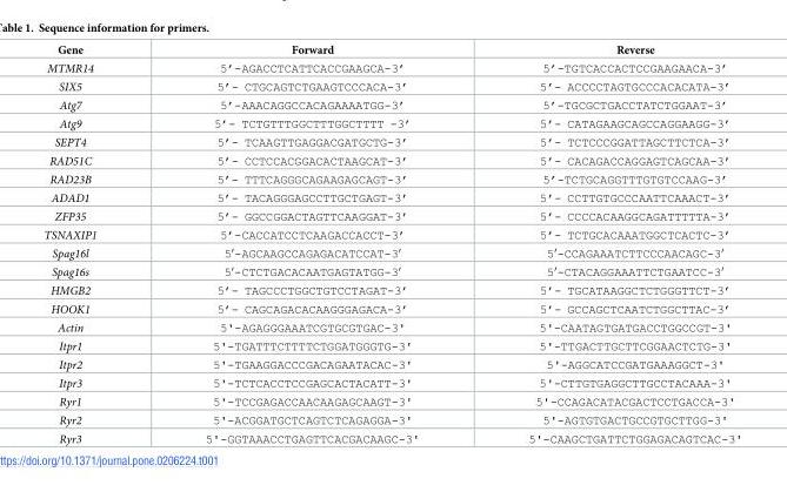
<table><thead><tr><td>Gene</td><td>Forward</td><td>Reverse</td></tr></thead><tbody><tr><td>MTMR14</td><td>5’-AGACCTCATTCACCGAAGCA-3’</td><td>5’-TGTCACCACTCCGAAGAACA-3’</td></tr><tr><td>SIX5</td><td>5’- CTGCAGTCTGAAGTCCCACA-3’</td><td>5’- ACCCCTAGTGCCCACACATA-3’</td></tr><tr><td>Atg7</td><td>5’-AAACAGGCCACAGAAAATGG-3’</td><td>5’-TGCGCTGACCTATCTGGAAT-3’</td></tr><tr><td>Atg9</td><td>5’- TCTGTTTGGCTTTGGCTTTT -3’</td><td>5’- CATAGAAGCAGCCAGGAAGG-3’</td></tr><tr><td>SEPT4</td><td>5’- TCAAGTTGAGGACGATGCTG-3’</td><td>5’- TCTCCCGGATTAGCTTCTCA-3’</td></tr><tr><td>RAD51C</td><td>5’- CCTCCACGGACACTAAGCAT-3’</td><td>5’- CACAGACCAGGAGTCAGCAA-3’</td></tr><tr><td>RAD23B</td><td>5’- TTTCAGGGCAGAAGAGCAGT-3’</td><td>5’-TCTGCAGGTTTGTGTCCAAG-3’</td></tr><tr><td>ADAD1</td><td>5’- TACAGGGAGCCTTGCTGAGT-3’</td><td>5’- CCTTGTGCCCAATTCAAACT-3’</td></tr><tr><td>ZFP35</td><td>5’- GGCCGGACTAGTTCAAGGAT-3’</td><td>5’- CCCCACAAGGCAGATTTTTA-3’</td></tr><tr><td>TSNAXIP1</td><td>5’-CACCATCCTCAAGACCACCT-3’</td><td>5’- TCTGCACAAATGGCTCACTC-3’</td></tr><tr><td>Spag16l</td><td>5′-AGCAAGCCAGAGACATCCAT-3′</td><td>5′-CCAGAAATCTTCCCAACAGC-3′</td></tr><tr><td>Spag16s</td><td>5′-CTCTGACACAATGAGTATGG-3′</td><td>5′-CTACAGGAAATTCTGAATCC-3′</td></tr><tr><td>HMGB2</td><td>5’- TAGCCCTGGCTGTCCTAGAT-3’</td><td>5’- TGCATAAGGCTCTGGGTTCT-3’</td></tr><tr><td>HOOK1</td><td>5’- CAGCAGACACAAGGGAGACA-3’</td><td>5’- GCCAGCTCAATCTGGCTTAC-3’</td></tr><tr><td>Actin</td><td>5&#x27;-AGAGGGAAATCGTGCGTGAC-3&#x27;</td><td>5&#x27;-CAATAGTGATGACCTGGCCGT-3&#x27;</td></tr><tr><td>Itpr1</td><td>5&#x27;-TGATTTCTTTTCTGGATGGGTG-3&#x27;</td><td>5&#x27;-TTGACTTGCTTCGGAACTCTG-3&#x27;</td></tr><tr><td>Itpr2</td><td>5&#x27;-TGAAGGACCCGACAGAATACAC-3&#x27;</td><td>5&#x27;-AGGCATCCGATGAAAGGCT-3&#x27;</td></tr><tr><td>Itpr3</td><td>5&#x27;-TCTCACCTCCGAGCACTACATT-3&#x27;</td><td>5&#x27;-CTTGTGAGGCTTGCCTACAAA-3&#x27;</td></tr><tr><td>Ryr1</td><td>5&#x27;-TCCGAGACCAACAAGAGCAAGT-3&#x27;</td><td>5&#x27;-CCAGACATACGACTCCTGACCA-3&#x27;</td></tr><tr><td>Ryr2</td><td>5&#x27;-ACGGATGCTCAGTCTCAGAGGA-3&#x27;</td><td>5&#x27;-AGTGTGACTGCCGTGCTTGG-3&#x27;</td></tr><tr><td>Ryr3</td><td>5&#x27;-GGTAAACCTGAGTTCACGACAAGC-3&#x27;</td><td>5&#x27;-CAAGCTGATTCTGGAGACAGTCAC-3&#x27;</td></tr></tbody></table>